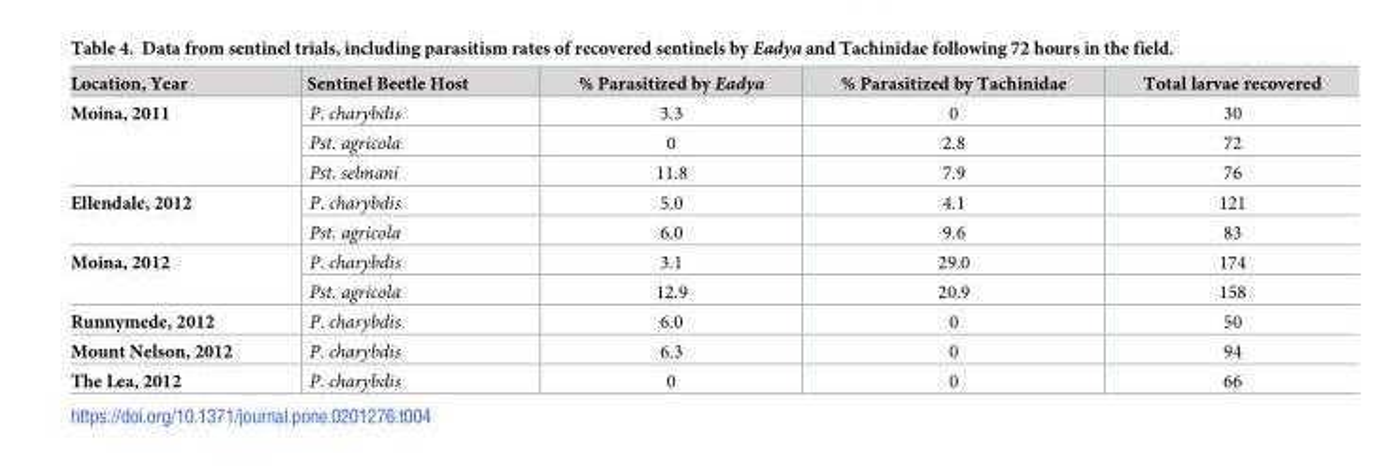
<table><thead><tr><td>Location, Year</td><td>Sentinel Beetle Host</td><td>% Parasitized by Eadya</td><td>% Parasitized by Tachinidae</td><td>Total larvae recovered</td></tr></thead><tbody><tr><td rowspan="3">Moina, 2011</td><td>P. charybdis</td><td>3.3</td><td>0</td><td>30</td></tr><tr><td>Pst. agricola</td><td>0</td><td>2.8</td><td>72</td></tr><tr><td>Pst. selmani</td><td>11.8</td><td>7.9</td><td>76</td></tr><tr><td rowspan="2">Ellendale, 2012</td><td>P. charybdis</td><td>5.0</td><td>4.1</td><td>121</td></tr><tr><td>Pst. agricola</td><td>6.0</td><td>9.6</td><td>83</td></tr><tr><td rowspan="2">Moina, 2012</td><td>P. charybdis</td><td>3.1</td><td>29.0</td><td>174</td></tr><tr><td>Pst. agricola</td><td>12.9</td><td>20.9</td><td>158</td></tr><tr><td>Runnymede, 2012</td><td>P. charybdis</td><td>6.0</td><td>0</td><td>50</td></tr><tr><td>Mount Nelson, 2012</td><td>P. charybdis</td><td>6.3</td><td>0</td><td>94</td></tr><tr><td>The Lea, 2012</td><td>P. charybdis</td><td>0</td><td>0</td><td>66</td></tr></tbody></table>